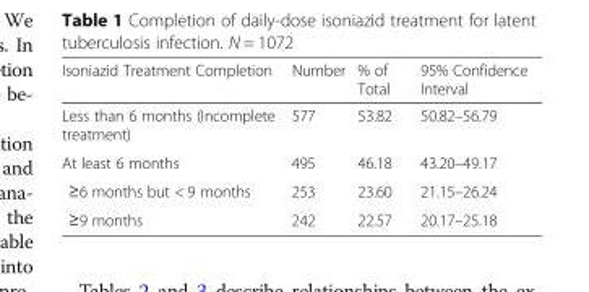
<table><thead><tr><td>Isoniazid Treatment Completion</td><td>Number</td><td>% of Total</td><td>95% Confidence Interval</td></tr></thead><tbody><tr><td>Less than 6 months (Incomplete treatment)</td><td>577</td><td>53.82</td><td>50.82–56.79</td></tr><tr><td>At least 6 months</td><td>495</td><td>46.18</td><td>43.20–49.17</td></tr><tr><td>≥6 months but &lt; 9 months</td><td>253</td><td>23.60</td><td>21.15–26.24</td></tr><tr><td>≥9 months</td><td>242</td><td>22.57</td><td>20.17–25.18</td></tr></tbody></table>